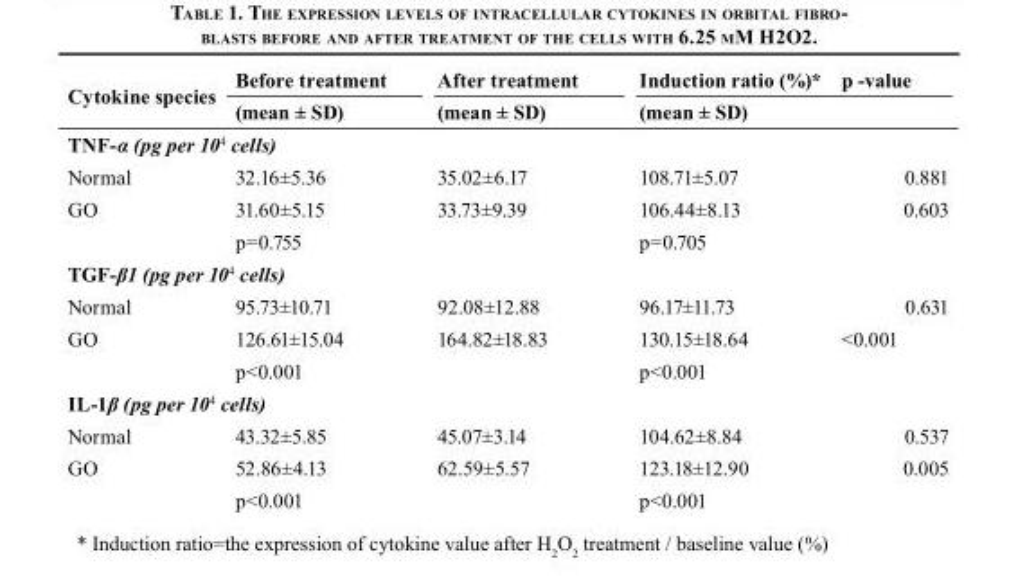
<table><thead><tr><td rowspan="2">Cytokine species</td><td rowspan="2">Before treatment (mean ± SD)</td><td rowspan="2">After treatment (mean ± SD)</td><td>Induction ratio (%)*</td><td>p -value</td></tr><tr><td colspan="2">(mean ± SD)</td></tr></thead><tbody><tr><td colspan="5">TNF-α (pg per 10<sup>4</sup> cells)</td></tr><tr><td>Normal</td><td>32.16±5.36</td><td>35.02±6.17</td><td>108.71±5.07</td><td>0.881</td></tr><tr><td rowspan="2">GO</td><td>31.60±5.15</td><td>33.73±9.39</td><td>106.44±8.13</td><td>0.603</td></tr><tr><td>p=0.755</td><td></td><td>p=0.705</td><td></td></tr><tr><td colspan="5">TGF-β1 (pg per 10<sup>4</sup> cells)</td></tr><tr><td>Normal</td><td>95.73±10.71</td><td>92.08±12.88</td><td>96.17±11.73</td><td>0.631</td></tr><tr><td rowspan="2">GO</td><td>126.61±15.04</td><td>164.82±18.83</td><td>130.15±18.64</td><td>&lt;0.001</td></tr><tr><td>p&lt;0.001</td><td></td><td>p&lt;0.001</td><td></td></tr><tr><td colspan="5">IL-1β (pg per 10<sup>4</sup> cells)</td></tr><tr><td>Normal</td><td>43.32±5.85</td><td>45.07±3.14</td><td>104.62±8.84</td><td>0.537</td></tr><tr><td rowspan="2">GO</td><td>52.86±4.13</td><td>62.59±5.57</td><td>123.18±12.90</td><td>0.005</td></tr><tr><td>p&lt;0.001</td><td></td><td>p&lt;0.001</td><td></td></tr></tbody></table>